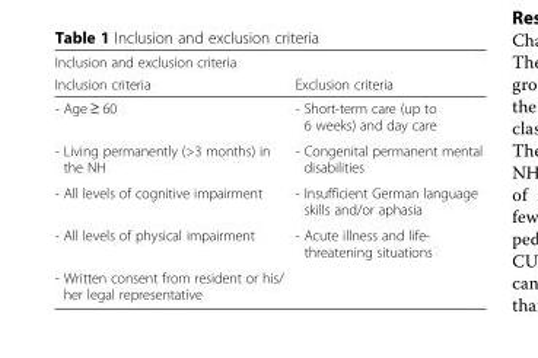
<table><thead><tr><td colspan="2">Inclusion and exclusion criteria</td></tr><tr><td>Inclusion criteria</td><td>Exclusion criteria</td></tr></thead><tbody><tr><td>- Age ≥ 60</td><td>- Short-term care (up to 6 weeks) and day care</td></tr><tr><td>- Living permanently (&gt;3 months) in the NH</td><td>- Congenital permanent mental disabilities</td></tr><tr><td>- All levels of cognitive impairment</td><td>- Insufficient German language skills and/or aphasia</td></tr><tr><td>- All levels of physical impairment</td><td>- Acute illness and life- threatening situations</td></tr><tr><td>- Written consent from resident or his/ her legal representative</td><td></td></tr></tbody></table>